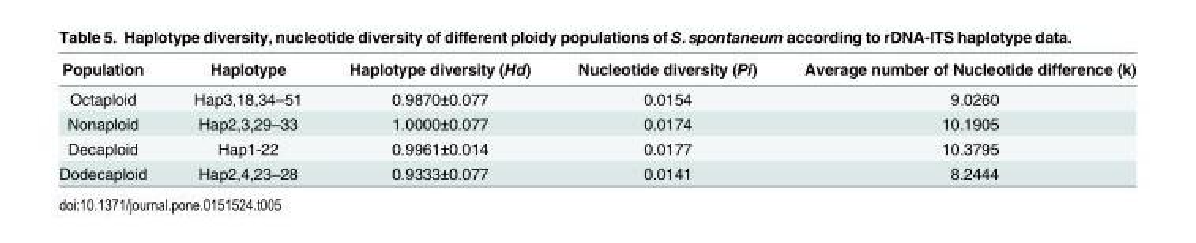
<table><thead><tr><td>Population</td><td>Haplotype</td><td>Haplotype diversity (Hd)</td><td>Nucleotide diversity (Pi)</td><td>Average number of Nucleotide difference (k)</td></tr></thead><tbody><tr><td>Octaploid</td><td>Hap3,18,34–51</td><td>0.9870±0.077</td><td>0.0154</td><td>9.0260</td></tr><tr><td>Nonaploid</td><td>Hap2,3,29–33</td><td>1.0000±0.077</td><td>0.0174</td><td>10.1905</td></tr><tr><td>Decaploid</td><td>Hap1-22</td><td>0.9961±0.014</td><td>0.0177</td><td>10.3795</td></tr><tr><td>Dodecaploid</td><td>Hap2,4,23–28</td><td>0.9333±0.077</td><td>0.0141</td><td>8.2444</td></tr></tbody></table>